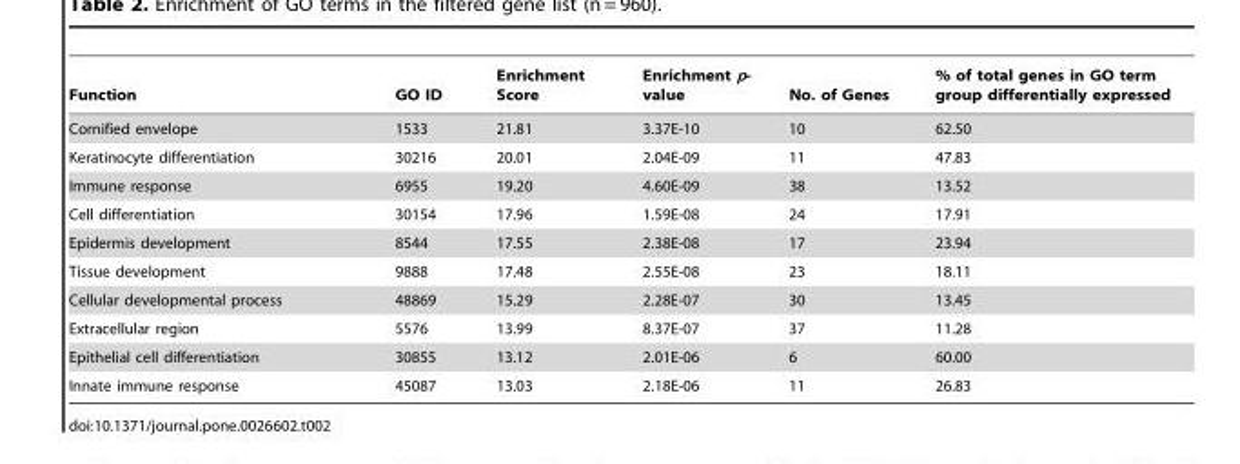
<table><thead><tr><td>Function</td><td>GO ID</td><td>Enrichment Score</td><td>Enrichment p- value</td><td>No. of Genes</td><td>% of total genes in GO term group differentially expressed</td></tr></thead><tbody><tr><td>Cornified envelope</td><td>1533</td><td>21.81</td><td>3.37E-10</td><td>10</td><td>62.50</td></tr><tr><td>Keratinocyte differentiation</td><td>30216</td><td>20.01</td><td>2.04E-09</td><td>11</td><td>47.83</td></tr><tr><td>Immune response</td><td>6955</td><td>19.20</td><td>4.60E-09</td><td>38</td><td>13.52</td></tr><tr><td>Cell differentiation</td><td>30154</td><td>17.96</td><td>1.59E-08</td><td>24</td><td>17.91</td></tr><tr><td>Epidermis development</td><td>8544</td><td>17.55</td><td>2.38E-08</td><td>17</td><td>23.94</td></tr><tr><td>Tissue development</td><td>9888</td><td>17.48</td><td>2.55E-08</td><td>23</td><td>18.11</td></tr><tr><td>Cellular developmental process</td><td>48869</td><td>15.29</td><td>2.28E-07</td><td>30</td><td>13.45</td></tr><tr><td>Extracellular region</td><td>5576</td><td>13.99</td><td>8.37E-07</td><td>37</td><td>11.28</td></tr><tr><td>Epithelial cell differentiation</td><td>30855</td><td>13.12</td><td>2.01E-06</td><td>6</td><td>60.00</td></tr><tr><td>Innate immune response</td><td>45087</td><td>13.03</td><td>2.18E-06</td><td>11</td><td>26.83</td></tr></tbody></table>